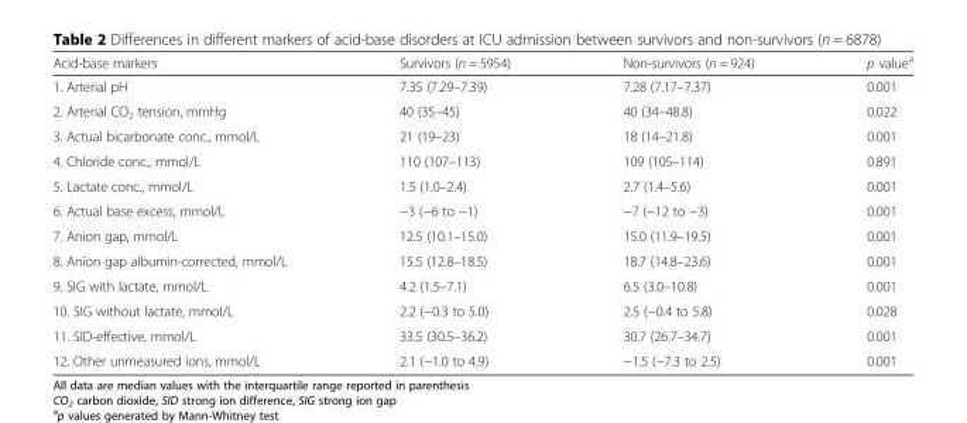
<table><thead><tr><td>Acid-base markers</td><td>Survivors (n = 5954)</td><td>Non-survivors (n = 924)</td><td>p value<sup>a</sup></td></tr></thead><tbody><tr><td>1. Arterial pH</td><td>7.35 (7.29–7.39)</td><td>7.28 (7.17–7.37)</td><td>0.001</td></tr><tr><td>2. Arterial CO<sub>2</sub> tension, mmHg</td><td>40 (35–45)</td><td>40 (34–48.8)</td><td>0.022</td></tr><tr><td>3. Actual bicarbonate conc., mmol/L</td><td>21 (19–23)</td><td>18 (14–21.8)</td><td>0.001</td></tr><tr><td>4. Chloride conc., mmol/L</td><td>110 (107–113)</td><td>109 (105–114)</td><td>0.891</td></tr><tr><td>5. Lactate conc., mmol/L</td><td>1.5 (1.0–2.4)</td><td>2.7 (1.4–5.6)</td><td>0.001</td></tr><tr><td>6. Actual base excess, mmol/L</td><td>−3 (−6 to −1)</td><td>−7 (−12 to −3)</td><td>0.001</td></tr><tr><td>7. Anion gap, mmol/L</td><td>12.5 (10.1–15.0)</td><td>15.0 (11.9–19.5)</td><td>0.001</td></tr><tr><td>8. Anion gap albumin-corrected, mmol/L</td><td>15.5 (12.8–18.5)</td><td>18.7 (14.8–23.6)</td><td>0.001</td></tr><tr><td>9. SIG with lactate, mmol/L</td><td>4.2 (1.5–7.1)</td><td>6.5 (3.0–10.8)</td><td>0.001</td></tr><tr><td>10. SIG without lactate, mmol/L</td><td>2.2 (−0.3 to 5.0)</td><td>2.5 (−0.4 to 5.8)</td><td>0.028</td></tr><tr><td>11. SID-effective, mmol/L</td><td>33.5 (30.5–36.2)</td><td>30.7 (26.7–34.7)</td><td>0.001</td></tr><tr><td>12. Other unmeasured ions, mmol/L</td><td>2.1 (−1.0 to 4.9)</td><td>−1.5 (−7.3 to 2.5)</td><td>0.001</td></tr></tbody></table>